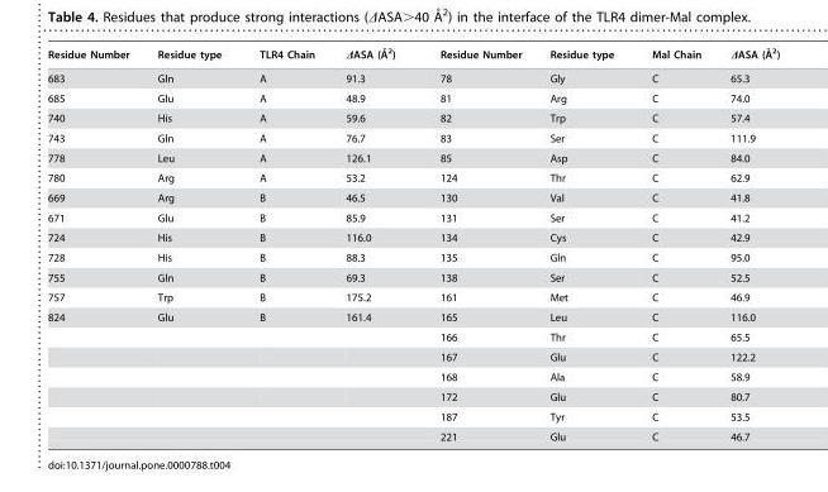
<table><thead><tr><td>Residue Number</td><td>Residue type</td><td>TLR4 Chain</td><td>DASA (A˚ 2)</td><td>Residue Number</td><td>Residue type</td><td>Mal Chain</td><td>DASA (A˚ 2)</td></tr></thead><tbody><tr><td>683</td><td>Gln</td><td>A</td><td>91.3</td><td>78</td><td>Gly</td><td>C</td><td>65.3</td></tr><tr><td>685</td><td>Glu</td><td>A</td><td>48.9</td><td>81</td><td>Arg</td><td>C</td><td>74.0</td></tr><tr><td>740</td><td>His</td><td>A</td><td>59.6</td><td>82</td><td>Trp</td><td>C</td><td>57.4</td></tr><tr><td>743</td><td>Gln</td><td>A</td><td>76.7</td><td>83</td><td>Ser</td><td>C</td><td>111.9</td></tr><tr><td>778</td><td>Leu</td><td>A</td><td>126.1</td><td>85</td><td>Asp</td><td>C</td><td>84.0</td></tr><tr><td>780</td><td>Arg</td><td>A</td><td>53.2</td><td>124</td><td>Thr</td><td>C</td><td>62.9</td></tr><tr><td>669</td><td>Arg</td><td>B</td><td>46.5</td><td>130</td><td>Val</td><td>C</td><td>41.8</td></tr><tr><td>671</td><td>Glu</td><td>B</td><td>85.9</td><td>131</td><td>Ser</td><td>C</td><td>41.2</td></tr><tr><td>724</td><td>His</td><td>B</td><td>116.0</td><td>134</td><td>Cys</td><td>C</td><td>42.9</td></tr><tr><td>728</td><td>His</td><td>B</td><td>88.3</td><td>135</td><td>Gln</td><td>C</td><td>95.0</td></tr><tr><td>755</td><td>Gln</td><td>B</td><td>69.3</td><td>138</td><td>Ser</td><td>C</td><td>52.5</td></tr><tr><td>757</td><td>Trp</td><td>B</td><td>175.2</td><td>161</td><td>Met</td><td>C</td><td>46.9</td></tr><tr><td rowspan="7">824</td><td>Glu</td><td>B</td><td>161.4</td><td>165</td><td>Leu</td><td>C</td><td>116.0</td></tr><tr><td></td><td></td><td></td><td>166</td><td>Thr</td><td>C</td><td>65.5</td></tr><tr><td></td><td></td><td></td><td>167</td><td>Glu</td><td>C</td><td>122.2</td></tr><tr><td></td><td></td><td></td><td>168</td><td>Ala</td><td>C</td><td>58.9</td></tr><tr><td></td><td></td><td></td><td>172</td><td>Glu</td><td>C</td><td>80.7</td></tr><tr><td></td><td></td><td></td><td>187</td><td>Tyr</td><td>C</td><td>53.5</td></tr><tr><td></td><td></td><td></td><td>221</td><td>Glu</td><td>C</td><td>46.7</td></tr></tbody></table>